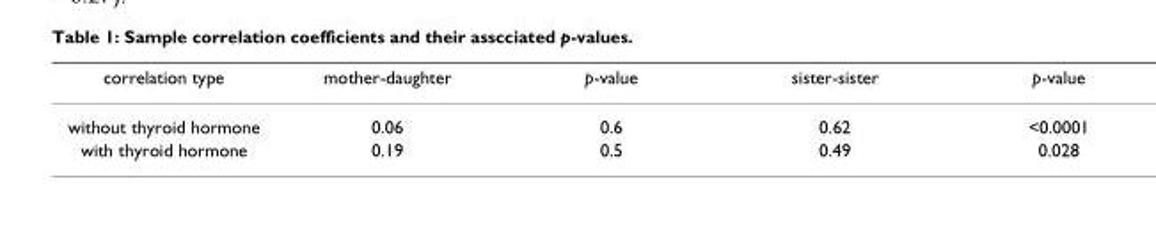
<table><thead><tr><td>correlation type</td><td>mother-daughter</td><td>p-value</td><td>sister-sister</td><td>p-value</td></tr></thead><tbody><tr><td>without thyroid hormone</td><td>0.06</td><td>0.6</td><td>0.62</td><td>&lt;0.0001</td></tr><tr><td>with thyroid hormone</td><td>0.19</td><td>0.5</td><td>0.49</td><td>0.028</td></tr></tbody></table>